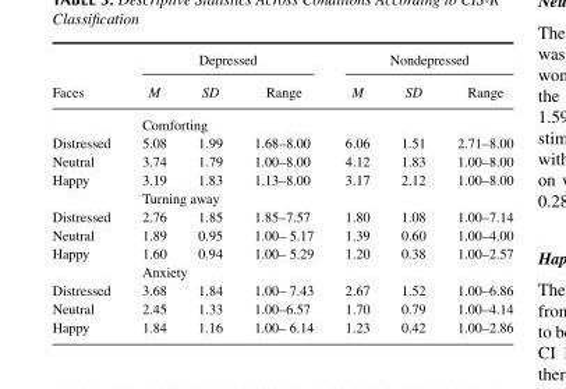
<table><thead><tr><td rowspan="2">Faces</td><td colspan="3">Depressed</td><td colspan="3">Nondepressed</td></tr><tr><td>M</td><td>SD</td><td>Range</td><td>M</td><td>SD</td><td>Range</td></tr></thead><tbody><tr><td></td><td colspan="6">Comforting</td></tr><tr><td>Distressed</td><td>5.08</td><td>1.99</td><td>1.68–8.00</td><td>6.06</td><td>1.51</td><td>2.71–8.00</td></tr><tr><td>Neutral</td><td>3.74</td><td>1.79</td><td>1.00–8.00</td><td>4.12</td><td>1.83</td><td>1.00–8.00</td></tr><tr><td rowspan="2">Happy</td><td>3.19</td><td>1.83</td><td>1.13–8.00</td><td>3.17</td><td>2.12</td><td>1.00–8.00</td></tr><tr><td colspan="6">Turning away</td></tr><tr><td>Distressed</td><td>2.76</td><td>1.85</td><td>1.85–7.57</td><td>1.80</td><td>1.08</td><td>1.00–7.14</td></tr><tr><td>Neutral</td><td>1.89</td><td>0.95</td><td>1.00– 5.17</td><td>1.39</td><td>0.60</td><td>1.00–4.00</td></tr><tr><td rowspan="2">Happy</td><td>1.60</td><td>0.94</td><td>1.00– 5.29</td><td>1.20</td><td>0.38</td><td>1.00–2.57</td></tr><tr><td colspan="6">Anxiety</td></tr><tr><td>Distressed</td><td>3.68</td><td>1.84</td><td>1.00– 7.43</td><td>2.67</td><td>1.52</td><td>1.00–6.86</td></tr><tr><td>Neutral</td><td>2.45</td><td>1.33</td><td>1.00–6.57</td><td>1.70</td><td>0.79</td><td>1.00–4.14</td></tr><tr><td>Happy</td><td>1.84</td><td>1.16</td><td>1.00– 6.14</td><td>1.23</td><td>0.42</td><td>1.00–2.86</td></tr></tbody></table>